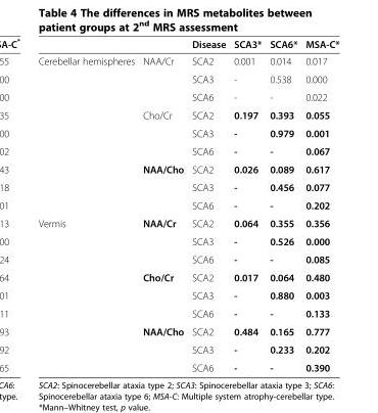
<table><thead><tr><td></td><td></td><td>Disease</td><td>SCA3*</td><td>SCA6*</td><td>MSA-C*</td></tr></thead><tbody><tr><td rowspan="9">Cerebellar hemispheres</td><td>NAA/Cr</td><td>SCA2</td><td>0.001</td><td>0.014</td><td>0.017</td></tr><tr><td></td><td>SCA3</td><td>-</td><td>0.538</td><td>0.000</td></tr><tr><td></td><td>SCA6</td><td>-</td><td>-</td><td>0.022</td></tr><tr><td>Cho/Cr</td><td>SCA2</td><td>0.197</td><td>0.393</td><td>0.055</td></tr><tr><td></td><td>SCA3</td><td>-</td><td>0.979</td><td>0.001</td></tr><tr><td></td><td>SCA6</td><td>-</td><td>-</td><td>0.067</td></tr><tr><td>NAA/Cho</td><td>SCA2</td><td>0.026</td><td>0.089</td><td>0.617</td></tr><tr><td></td><td>SCA3</td><td>-</td><td>0.456</td><td>0.077</td></tr><tr><td></td><td>SCA6</td><td>-</td><td>-</td><td>0.202</td></tr><tr><td rowspan="9">Vermis</td><td>NAA/Cr</td><td>SCA2</td><td>0.064</td><td>0.355</td><td>0.356</td></tr><tr><td></td><td>SCA3</td><td>-</td><td>0.526</td><td>0.000</td></tr><tr><td></td><td>SCA6</td><td>-</td><td>-</td><td>0.085</td></tr><tr><td>Cho/Cr</td><td>SCA2</td><td>0.017</td><td>0.064</td><td>0.480</td></tr><tr><td></td><td>SCA3</td><td>-</td><td>0.880</td><td>0.003</td></tr><tr><td></td><td>SCA6</td><td>-</td><td>-</td><td>0.133</td></tr><tr><td>NAA/Cho</td><td>SCA2</td><td>0.484</td><td>0.165</td><td>0.777</td></tr><tr><td></td><td>SCA3</td><td>-</td><td>0.233</td><td>0.202</td></tr><tr><td></td><td>SCA6</td><td>-</td><td>-</td><td>0.390</td></tr></tbody></table>